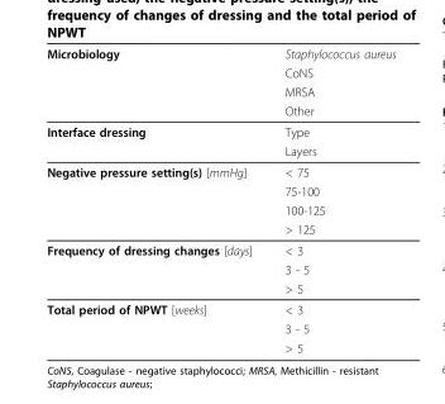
<table><thead><tr><td rowspan="4">Microbiology</td><td rowspan="4">Staphylococcus aureus CoNS MRSA Other</td></tr><tr></tr><tr></tr><tr></tr></thead><tbody><tr><td rowspan="2">Interface dressing</td><td>Type</td></tr><tr><td>Layers</td></tr><tr><td rowspan="4">Negative pressure setting(s) [mmHg]</td><td>&lt; 75</td></tr><tr><td>75-100</td></tr><tr><td>100-125</td></tr><tr><td>&gt; 125</td></tr><tr><td rowspan="3">Frequency of dressing changes [days]</td><td>&lt; 3</td></tr><tr><td>3 - 5</td></tr><tr><td>&gt; 5</td></tr><tr><td rowspan="3">Total period of NPWT [weeks]</td><td>&lt; 3</td></tr><tr><td>3 - 5</td></tr><tr><td>&gt; 5</td></tr></tbody></table>